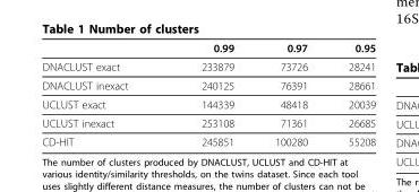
<table><thead><tr><td></td><td>0.99</td><td>0.97</td><td>0.95</td></tr></thead><tbody><tr><td>DNACLUST exact</td><td>233879</td><td>73726</td><td>28241</td></tr><tr><td>DNACLUST inexact</td><td>240125</td><td>76391</td><td>28661</td></tr><tr><td>UCLUST exact</td><td>144339</td><td>48418</td><td>20039</td></tr><tr><td>UCLUST inexact</td><td>253108</td><td>71361</td><td>26685</td></tr><tr><td>CD-HIT</td><td>245851</td><td>100280</td><td>55208</td></tr></tbody></table>